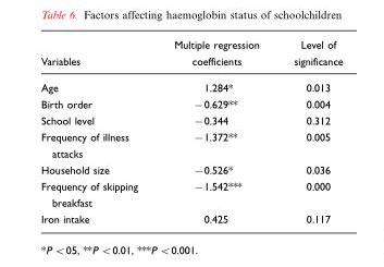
<table><thead><tr><td>Variables</td><td>Multiple regression coefficients</td><td>Level of significance</td></tr></thead><tbody><tr><td>Age</td><td>1.284*</td><td>0.013</td></tr><tr><td>Birth order</td><td>−0.629**</td><td>0.004</td></tr><tr><td>School level</td><td>−0.344</td><td>0.312</td></tr><tr><td>Frequency of illness attacks</td><td>−1.372**</td><td>0.005</td></tr><tr><td>Household size</td><td>−0.526*</td><td>0.036</td></tr><tr><td>Frequency of skipping breakfast</td><td>−1.542***</td><td>0.000</td></tr><tr><td>Iron intake</td><td>0.425</td><td>0.117</td></tr></tbody></table>